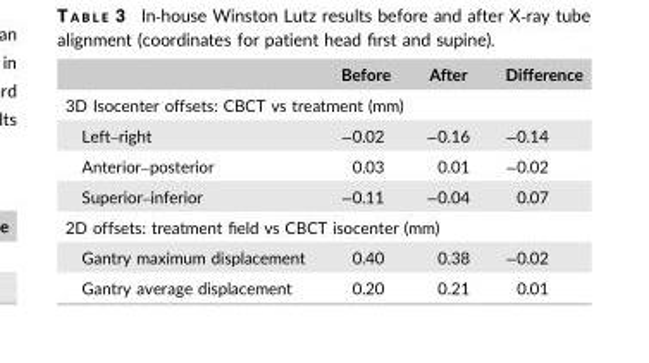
<table><thead><tr><td></td><td>Before</td><td>After</td><td>Difference</td></tr></thead><tbody><tr><td colspan="4">3D Isocenter offsets: CBCT vs treatment (mm)</td></tr><tr><td>Left–right</td><td>−0.02</td><td>−0.16</td><td>−0.14</td></tr><tr><td>Anterior–posterior</td><td>0.03</td><td>0.01</td><td>−0.02</td></tr><tr><td>Superior–inferior</td><td>−0.11</td><td>−0.04</td><td>0.07</td></tr><tr><td colspan="4">2D offsets: treatment field vs CBCT isocenter (mm)</td></tr><tr><td>Gantry maximum displacement</td><td>0.40</td><td>0.38</td><td>−0.02</td></tr><tr><td>Gantry average displacement</td><td>0.20</td><td>0.21</td><td>0.01</td></tr></tbody></table>